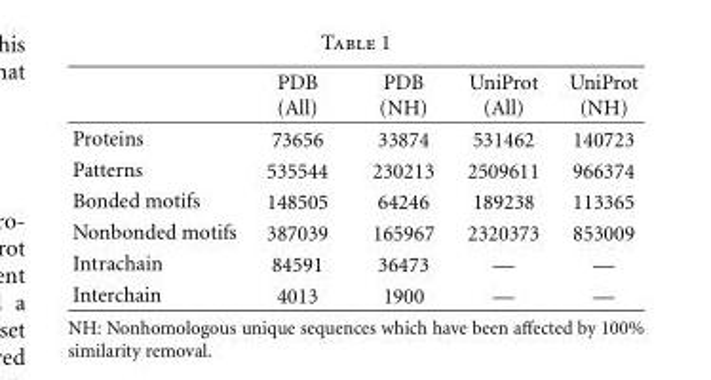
<table><thead><tr><td></td><td>PDB (All)</td><td>PDB (NH)</td><td>UniProt (All)</td><td>UniProt (NH)</td></tr></thead><tbody><tr><td>Proteins</td><td>73656</td><td>33874</td><td>531462</td><td>140723</td></tr><tr><td>Patterns</td><td>535544</td><td>230213</td><td>2509611</td><td>966374</td></tr><tr><td>Bonded motifs</td><td>148505</td><td>64246</td><td>189238</td><td>113365</td></tr><tr><td>Nonbonded motifs</td><td>387039</td><td>165967</td><td>2320373</td><td>853009</td></tr><tr><td>Intrachain</td><td>84591</td><td>36473</td><td>—</td><td>—</td></tr><tr><td>Interchain</td><td>4013</td><td>1900</td><td>—</td><td>—</td></tr></tbody></table>